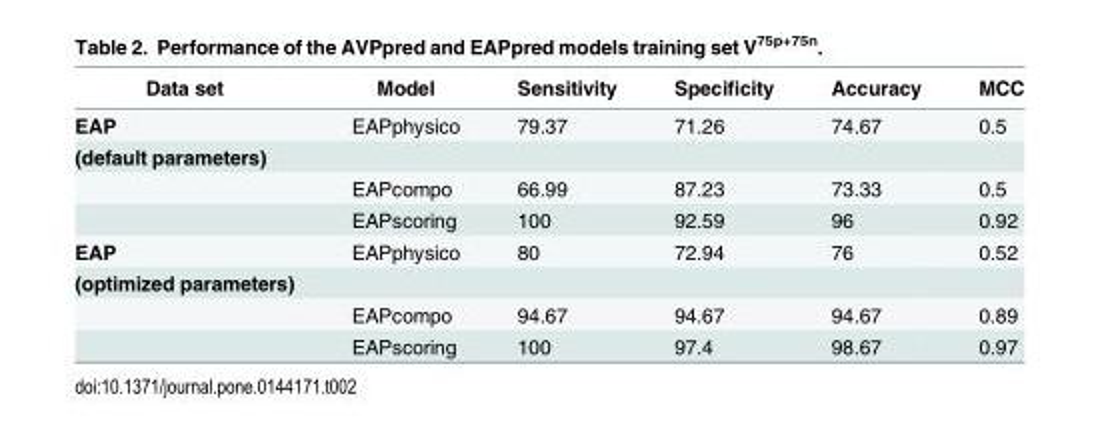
<table><thead><tr><td>Data set</td><td>Model</td><td>Sensitivity</td><td>Specificity</td><td>Accuracy</td><td>MCC</td></tr></thead><tbody><tr><td>EAP</td><td>EAPphysico</td><td>79.37</td><td>71.26</td><td>74.67</td><td>0.5</td></tr><tr><td colspan="6">(default parameters)</td></tr><tr><td></td><td>EAPcompo</td><td>66.99</td><td>87.23</td><td>73.33</td><td>0.5</td></tr><tr><td></td><td>EAPscoring</td><td>100</td><td>92.59</td><td>96</td><td>0.92</td></tr><tr><td>EAP</td><td>EAPphysico</td><td>80</td><td>72.94</td><td>76</td><td>0.52</td></tr><tr><td colspan="6">(optimized parameters)</td></tr><tr><td></td><td>EAPcompo</td><td>94.67</td><td>94.67</td><td>94.67</td><td>0.89</td></tr><tr><td></td><td>EAPscoring</td><td>100</td><td>97.4</td><td>98.67</td><td>0.97</td></tr></tbody></table>